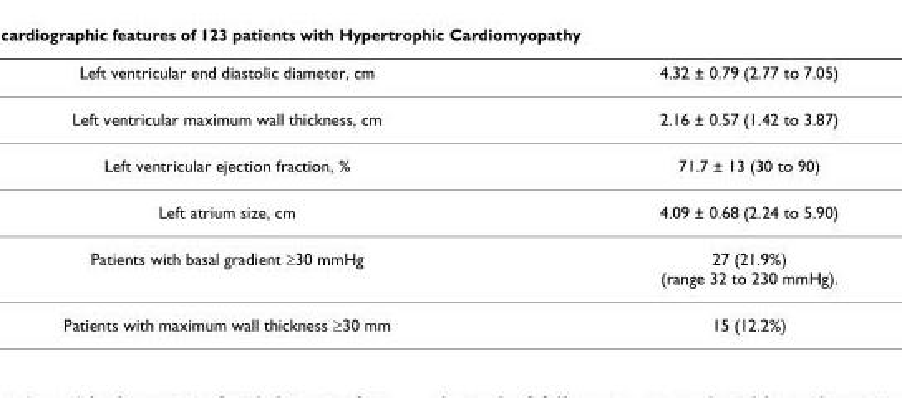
<table><thead><tr><td>Left ventricular end diastolic diameter, cm</td><td>4.32 ± 0.79 (2.77 to 7.05)</td></tr></thead><tbody><tr><td>Left ventricular maximum wall thickness, cm</td><td>2.16 ± 0.57 (1.42 to 3.87)</td></tr><tr><td>Left ventricular ejection fraction, %</td><td>71.7 ± 13 (30 to 90)</td></tr><tr><td>Left atrium size, cm</td><td>4.09 ± 0.68 (2.24 to 5.90)</td></tr><tr><td>Patients with basal gradient ≥30 mmHg</td><td>27 (21.9%) (range 32 to 230 mmHg).</td></tr><tr><td>Patients with maximum wall thickness ≥30 mm</td><td>15 (12.2%)</td></tr></tbody></table>